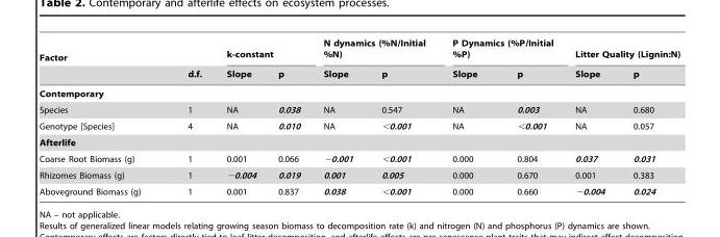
<table><thead><tr><td rowspan="2">Factor</td><td rowspan="2">d.f.</td><td colspan="2">k-constant</td><td colspan="2">N dynamics (%N/Initial %N)</td><td colspan="2">P Dynamics (%P/Initial %P)</td><td colspan="2">Litter Quality (Lignin:N)</td></tr><tr><td>Slope</td><td>p</td><td>Slope</td><td>p</td><td>Slope</td><td>p</td><td>Slope</td><td>p</td></tr></thead><tbody><tr><td colspan="10">Contemporary</td></tr><tr><td>Species</td><td>1</td><td>NA</td><td>0.038</td><td>NA</td><td>0.547</td><td>NA</td><td>0.003</td><td>NA</td><td>0.680</td></tr><tr><td>Genotype [Species]</td><td>4</td><td>NA</td><td>0.010</td><td>NA</td><td>&lt;0.001</td><td>NA</td><td>&lt;0.001</td><td>NA</td><td>0.057</td></tr><tr><td colspan="10">Afterlife</td></tr><tr><td>Coarse Root Biomass (g)</td><td>1</td><td>0.001</td><td>0.066</td><td>−0.001</td><td>&lt;0.001</td><td>0.000</td><td>0.804</td><td>0.037</td><td>0.031</td></tr><tr><td>Rhizomes Biomass (g)</td><td>1</td><td>−0.004</td><td>0.019</td><td>0.001</td><td>0.005</td><td>0.000</td><td>0.670</td><td>0.001</td><td>0.383</td></tr><tr><td>Aboveground Biomass (g)</td><td>1</td><td>0.001</td><td>0.837</td><td>0.038</td><td>&lt;0.001</td><td>0.000</td><td>0.660</td><td>−0.004</td><td>0.024</td></tr></tbody></table>